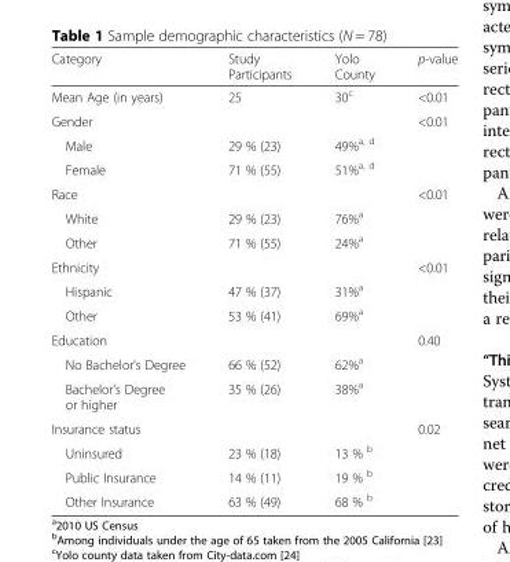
<table><thead><tr><td>Category</td><td>Study Participants</td><td>Yolo County</td><td>p-value</td></tr></thead><tbody><tr><td>Mean Age (in years)</td><td>25</td><td>30<sup>c</sup></td><td>&lt;0.01</td></tr><tr><td>Gender</td><td></td><td></td><td>&lt;0.01</td></tr><tr><td>Male</td><td>29 % (23)</td><td>49%<sup>a, d</sup></td><td></td></tr><tr><td>Female</td><td>71 % (55)</td><td>51%<sup>a, d</sup></td><td></td></tr><tr><td>Race</td><td></td><td></td><td>&lt;0.01</td></tr><tr><td>White</td><td>29 % (23)</td><td>76%<sup>a</sup></td><td></td></tr><tr><td>Other</td><td>71 % (55)</td><td>24%<sup>a</sup></td><td></td></tr><tr><td>Ethnicity</td><td></td><td></td><td>&lt;0.01</td></tr><tr><td>Hispanic</td><td>47 % (37)</td><td>31%<sup>a</sup></td><td></td></tr><tr><td>Other</td><td>53 % (41)</td><td>69%<sup>a</sup></td><td></td></tr><tr><td>Education</td><td></td><td></td><td>0.40</td></tr><tr><td>No Bachelor’s Degree</td><td>66 % (52)</td><td>62%<sup>a</sup></td><td></td></tr><tr><td>Bachelor’s Degree or higher</td><td>35 % (26)</td><td>38%<sup>a</sup></td><td></td></tr><tr><td>Insurance status</td><td></td><td></td><td>0.02</td></tr><tr><td>Uninsured</td><td>23 % (18)</td><td>13 % <sup>b</sup></td><td></td></tr><tr><td>Public Insurance</td><td>14 % (11)</td><td>19 % <sup>b</sup></td><td></td></tr><tr><td>Other Insurance</td><td>63 % (49)</td><td>68 % <sup>b</sup></td><td></td></tr></tbody></table>